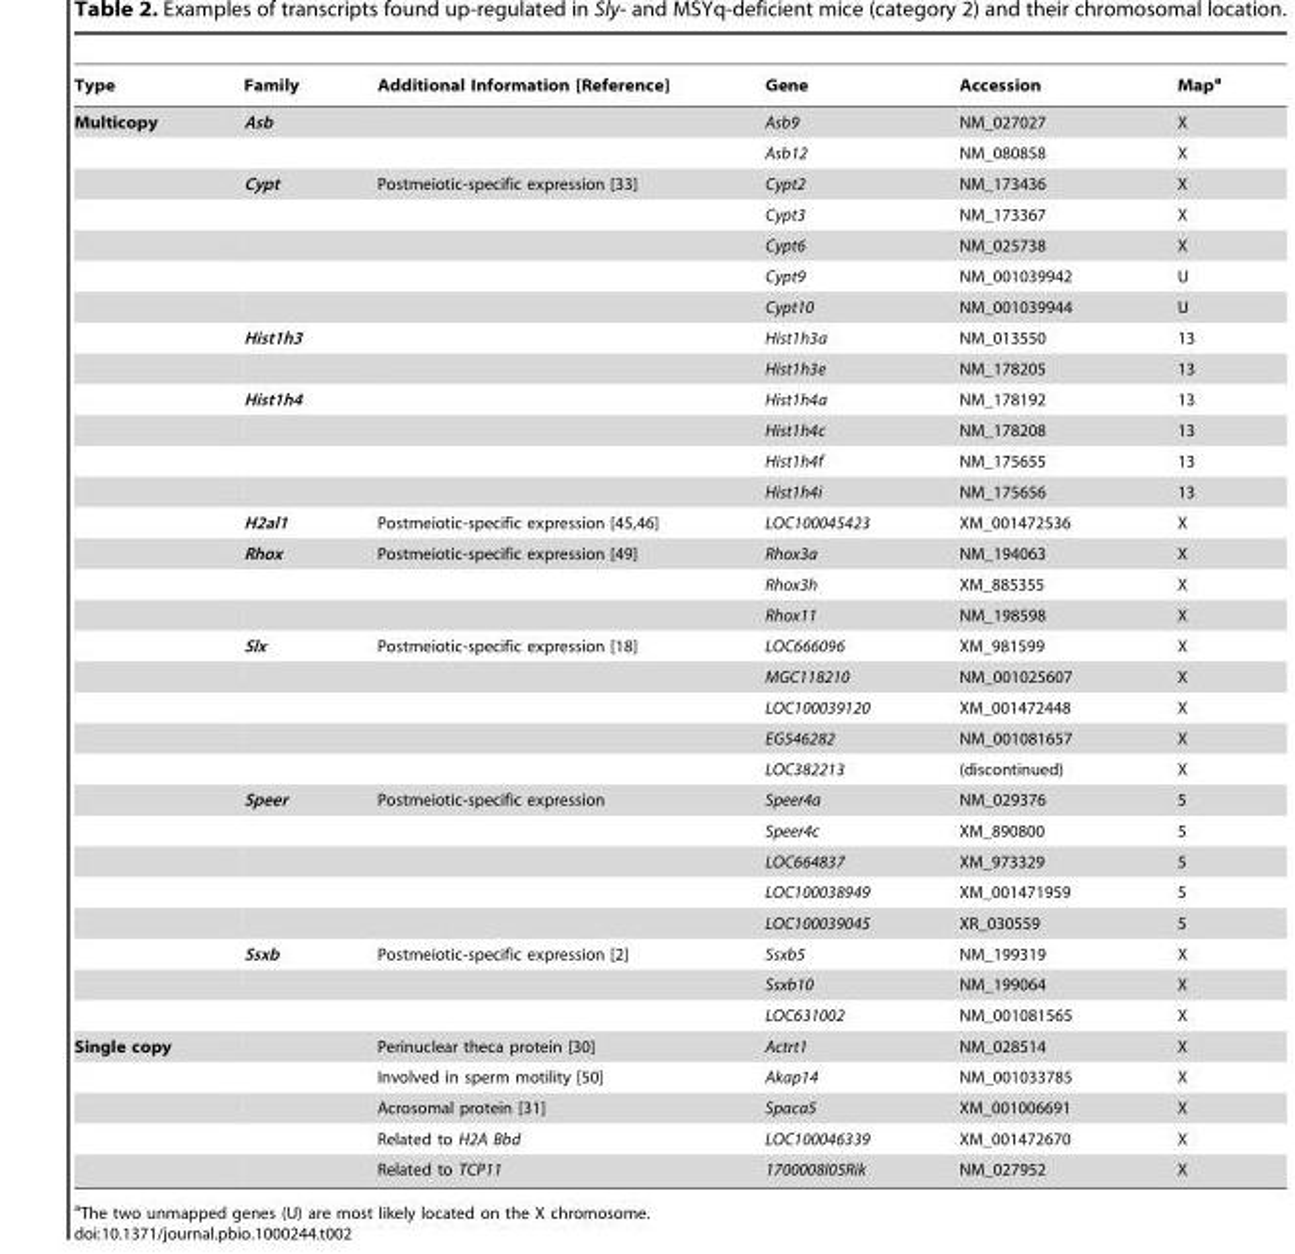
<table><thead><tr><td>Type</td><td>Family</td><td>Additional Information [Reference]</td><td>Gene</td><td>Accession</td><td>Map<sup>a</sup></td></tr></thead><tbody><tr><td rowspan="30">Multicopy</td><td>Asb</td><td></td><td>Asb9</td><td>NM_027027</td><td>X</td></tr><tr><td></td><td></td><td>Asb12</td><td>NM_080858</td><td>X</td></tr><tr><td>Cypt</td><td>Postmeiotic-specific expression [33]</td><td>Cypt2</td><td>NM_173436</td><td>X</td></tr><tr><td></td><td></td><td>Cypt3</td><td>NM_173367</td><td>X</td></tr><tr><td></td><td></td><td>Cypt6</td><td>NM_025738</td><td>X</td></tr><tr><td></td><td></td><td>Cypt9</td><td>NM_001039942</td><td>U</td></tr><tr><td></td><td></td><td>Cypt10</td><td>NM_001039944</td><td>U</td></tr><tr><td>Hist1h3</td><td></td><td>Hist1h3a</td><td>NM_013550</td><td>13</td></tr><tr><td></td><td></td><td>Hist1h3e</td><td>NM_178205</td><td>13</td></tr><tr><td>Hist1h4</td><td></td><td>Hist1h4a</td><td>NM_178192</td><td>13</td></tr><tr><td></td><td></td><td>Hist1h4c</td><td>NM_178208</td><td>13</td></tr><tr><td></td><td></td><td>Hist1h4f</td><td>NM_175655</td><td>13</td></tr><tr><td></td><td></td><td>Hist1h4i</td><td>NM_175656</td><td>13</td></tr><tr><td>H2al1</td><td>Postmeiotic-specific expression [45,46]</td><td>LOC100045423</td><td>XM_001472536</td><td>X</td></tr><tr><td>Rhox</td><td>Postmeiotic-specific expression [49]</td><td>Rhox3a</td><td>NM_194063</td><td>X</td></tr><tr><td></td><td></td><td>Rhox3h</td><td>XM_885355</td><td>X</td></tr><tr><td></td><td></td><td>Rhox11</td><td>NM_198598</td><td>X</td></tr><tr><td>Slx</td><td>Postmeiotic-specific expression [18]</td><td>LOC666096</td><td>XM_981599</td><td>X</td></tr><tr><td></td><td></td><td>MGC118210</td><td>NM_001025607</td><td>X</td></tr><tr><td></td><td></td><td>LOC100039120</td><td>XM_001472448</td><td>X</td></tr><tr><td></td><td></td><td>EG546282</td><td>NM_001081657</td><td>X</td></tr><tr><td></td><td></td><td>LOC382213</td><td>(discontinued)</td><td>X</td></tr><tr><td>Speer</td><td>Postmeiotic-specific expression</td><td>Speer4a</td><td>NM_029376</td><td>5</td></tr><tr><td></td><td></td><td>Speer4c</td><td>XM_890800</td><td>5</td></tr><tr><td></td><td></td><td>LOC664837</td><td>XM_973329</td><td>5</td></tr><tr><td></td><td></td><td>LOC100038949</td><td>XM_001471959</td><td>5</td></tr><tr><td></td><td></td><td>LOC100039045</td><td>XR_030559</td><td>5</td></tr><tr><td>Ssxb</td><td>Postmeiotic-specific expression [2]</td><td>Ssxb5</td><td>NM_199319</td><td>X</td></tr><tr><td></td><td></td><td>Ssxb10</td><td>NM_199064</td><td>X</td></tr><tr><td></td><td></td><td>LOC631002</td><td>NM_001081565</td><td>X</td></tr><tr><td rowspan="5">Single copy</td><td></td><td>Perinuclear theca protein [30]</td><td>Actrt1</td><td>NM_028514</td><td>X</td></tr><tr><td></td><td>Involved in sperm motility [50]</td><td>Akap14</td><td>NM_001033785</td><td>X</td></tr><tr><td></td><td>Acrosomal protein [31]</td><td>Spaca5</td><td>XM_001006691</td><td>X</td></tr><tr><td></td><td>Related to H2A Bbd</td><td>LOC100046339</td><td>XM_001472670</td><td>X</td></tr><tr><td></td><td>Related to TCP11</td><td>1700008I05Rik</td><td>NM_027952</td><td>X</td></tr></tbody></table>